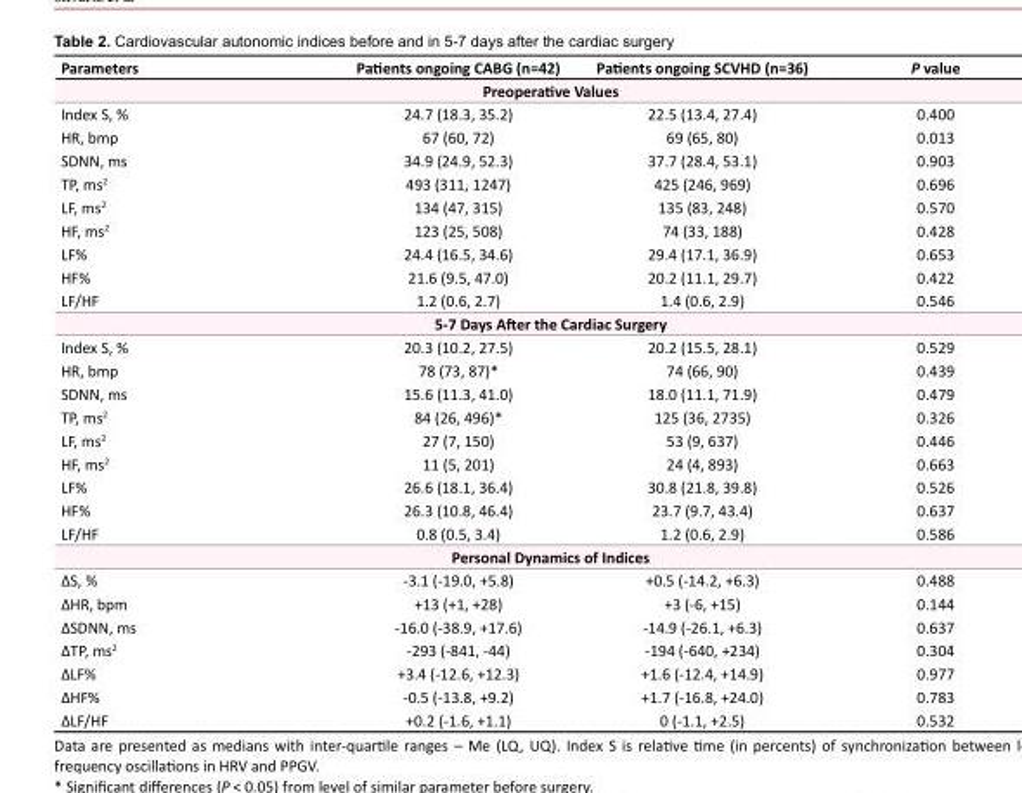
<table><tbody><tr><td>Parameters</td><td>Patients ongoing CABG (n=42)</td><td>Patients ongoing SCVHD (n=36)</td><td>P value</td></tr><tr><td colspan="4">Preoperative Values</td></tr><tr><td>Index S, %</td><td>24.7 (18.3, 35.2)</td><td>22.5 (13.4, 27.4)</td><td>0.400</td></tr><tr><td>HR, bmp</td><td>67 (60, 72)</td><td>69 (65, 80)</td><td>0.013</td></tr><tr><td>SDNN, ms</td><td>34.9 (24.9, 52.3)</td><td>37.7 (28.4, 53.1)</td><td>0.903</td></tr><tr><td>TP, ms<sup>2</sup></td><td>493 (311, 1247)</td><td>425 (246, 969)</td><td>0.696</td></tr><tr><td>LF, ms<sup>2</sup></td><td>134 (47, 315)</td><td>135 (83, 248)</td><td>0.570</td></tr><tr><td>HF, ms<sup>2</sup></td><td>123 (25, 508)</td><td>74 (33, 188)</td><td>0.428</td></tr><tr><td>LF%</td><td>24.4 (16.5, 34.6)</td><td>29.4 (17.1, 36.9)</td><td>0.653</td></tr><tr><td>HF%</td><td>21.6 (9.5, 47.0)</td><td>20.2 (11.1, 29.7)</td><td>0.422</td></tr><tr><td>LF/HF</td><td>1.2 (0.6, 2.7)</td><td>1.4 (0.6, 2.9)</td><td>0.546</td></tr><tr><td colspan="4">5-7 Days After the Cardiac Surgery</td></tr><tr><td>Index S, %</td><td>20.3 (10.2, 27.5)</td><td>20.2 (15.5, 28.1)</td><td>0.529</td></tr><tr><td>HR, bmp</td><td>78 (73, 87)*</td><td>74 (66, 90)</td><td>0.439</td></tr><tr><td>SDNN, ms</td><td>15.6 (11.3, 41.0)</td><td>18.0 (11.1, 71.9)</td><td>0.479</td></tr><tr><td>TP, ms<sup>2</sup></td><td>84 (26, 496)*</td><td>125 (36, 2735)</td><td>0.326</td></tr><tr><td>LF, ms<sup>2</sup></td><td>27 (7, 150)</td><td>53 (9, 637)</td><td>0.446</td></tr><tr><td>HF, ms<sup>2</sup></td><td>11 (5, 201)</td><td>24 (4, 893)</td><td>0.663</td></tr><tr><td>LF%</td><td>26.6 (18.1, 36.4)</td><td>30.8 (21.8, 39.8)</td><td>0.526</td></tr><tr><td>HF%</td><td>26.3 (10.8, 46.4)</td><td>23.7 (9.7, 43.4)</td><td>0.637</td></tr><tr><td>LF/HF</td><td>0.8 (0.5, 3.4)</td><td>1.2 (0.6, 2.9)</td><td>0.586</td></tr><tr><td colspan="4">Personal Dynamics of Indices</td></tr><tr><td>ΔS, %</td><td>-3.1 (-19.0, +5.8)</td><td>+0.5 (-14.2, +6.3)</td><td>0.488</td></tr><tr><td>ΔHR, bpm</td><td>+13 (+1, +28)</td><td>+3 (-6, +15)</td><td>0.144</td></tr><tr><td>ΔSDNN, ms</td><td>-16.0 (-38.9, +17.6)</td><td>-14.9 (-26.1, +6.3)</td><td>0.637</td></tr><tr><td>ΔTP, ms<sup>2</sup></td><td>-293 (-841, -44)</td><td>-194 (-640, +234)</td><td>0.304</td></tr><tr><td>ΔLF%</td><td>+3.4 (-12.6, +12.3)</td><td>+1.6 (-12.4, +14.9)</td><td>0.977</td></tr><tr><td>ΔHF%</td><td>-0.5 (-13.8, +9.2)</td><td>+1.7 (-16.8, +24.0)</td><td>0.783</td></tr><tr><td>ΔLF/HF</td><td>+0.2 (-1.6, +1.1)</td><td>0 (-1.1, +2.5)</td><td>0.532</td></tr></tbody></table>